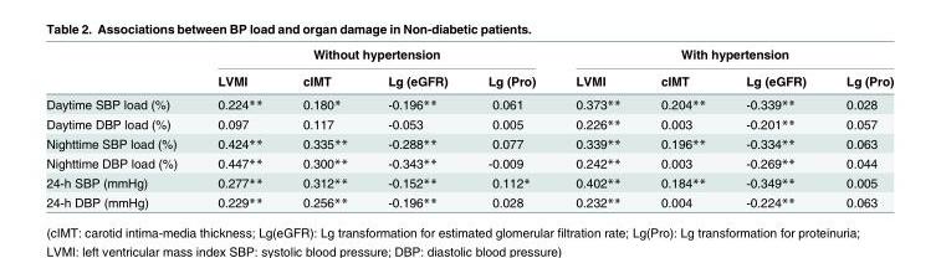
<table><thead><tr><td rowspan="2"></td><td colspan="4">Without hypertension</td><td colspan="4">With hypertension</td></tr><tr><td>LVMI</td><td>cIMT</td><td>Lg (eGFR)</td><td>Lg (Pro)</td><td>LVMI</td><td>cIMT</td><td>Lg (eGFR)</td><td>Lg (Pro)</td></tr></thead><tbody><tr><td>Daytime SBP load (%)</td><td>0.224**</td><td>0.180*</td><td>-0.196**</td><td>0.061</td><td>0.373**</td><td>0.204**</td><td>-0.339**</td><td>0.028</td></tr><tr><td>Daytime DBP load (%)</td><td>0.097</td><td>0.117</td><td>-0.053</td><td>0.005</td><td>0.226**</td><td>0.003</td><td>-0.201**</td><td>0.057</td></tr><tr><td>Nighttime SBP load (%)</td><td>0.424**</td><td>0.335**</td><td>-0.288**</td><td>0.077</td><td>0.339**</td><td>0.196**</td><td>-0.334**</td><td>0.063</td></tr><tr><td>Nighttime DBP load (%)</td><td>0.447**</td><td>0.300**</td><td>-0.343**</td><td>-0.009</td><td>0.242**</td><td>0.003</td><td>-0.269**</td><td>0.044</td></tr><tr><td>24-h SBP (mmHg)</td><td>0.277**</td><td>0.312**</td><td>-0.152**</td><td>0.112*</td><td>0.402**</td><td>0.184**</td><td>-0.349**</td><td>0.005</td></tr><tr><td>24-h DBP (mmHg)</td><td>0.229**</td><td>0.256**</td><td>-0.196**</td><td>0.028</td><td>0.232**</td><td>0.004</td><td>-0.224**</td><td>0.063</td></tr></tbody></table>